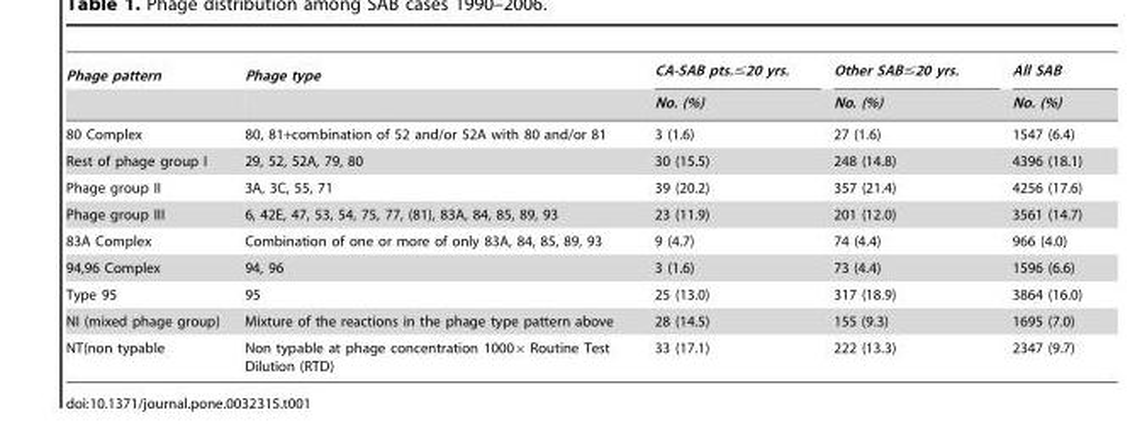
<table><thead><tr><td rowspan="2">Phage pattern</td><td rowspan="2">Phage type</td><td rowspan="2">CA-SAB pts.≤20 yrs. No. (%)</td><td rowspan="2">Other SAB≤20 yrs. No. (%)</td><td rowspan="2">All SAB No. (%)</td></tr><tr></tr></thead><tbody><tr><td>80 Complex</td><td>80, 81+combination of 52 and/or 52A with 80 and/or 81</td><td>3 (1.6)</td><td>27 (1.6)</td><td>1547 (6.4)</td></tr><tr><td>Rest of phage group I</td><td>29, 52, 52A, 79, 80</td><td>30 (15.5)</td><td>248 (14.8)</td><td>4396 (18.1)</td></tr><tr><td>Phage group II</td><td>3A, 3C, 55, 71</td><td>39 (20.2)</td><td>357 (21.4)</td><td>4256 (17.6)</td></tr><tr><td>Phage group III</td><td>6, 42E, 47, 53, 54, 75, 77, (81), 83A, 84, 85, 89, 93</td><td>23 (11.9)</td><td>201 (12.0)</td><td>3561 (14.7)</td></tr><tr><td>83A Complex</td><td>Combination of one or more of only 83A, 84, 85, 89, 93</td><td>9 (4.7)</td><td>74 (4.4)</td><td>966 (4.0)</td></tr><tr><td>94,96 Complex</td><td>94, 96</td><td>3 (1.6)</td><td>73 (4.4)</td><td>1596 (6.6)</td></tr><tr><td>Type 95</td><td>95</td><td>25 (13.0)</td><td>317 (18.9)</td><td>3864 (16.0)</td></tr><tr><td>NI (mixed phage group)</td><td>Mixture of the reactions in the phage type pattern above</td><td>28 (14.5)</td><td>155 (9.3)</td><td>1695 (7.0)</td></tr><tr><td>NT(non typable</td><td>Non typable at phage concentration 1000× Routine Test Dilution (RTD)</td><td>33 (17.1)</td><td>222 (13.3)</td><td>2347 (9.7)</td></tr></tbody></table>